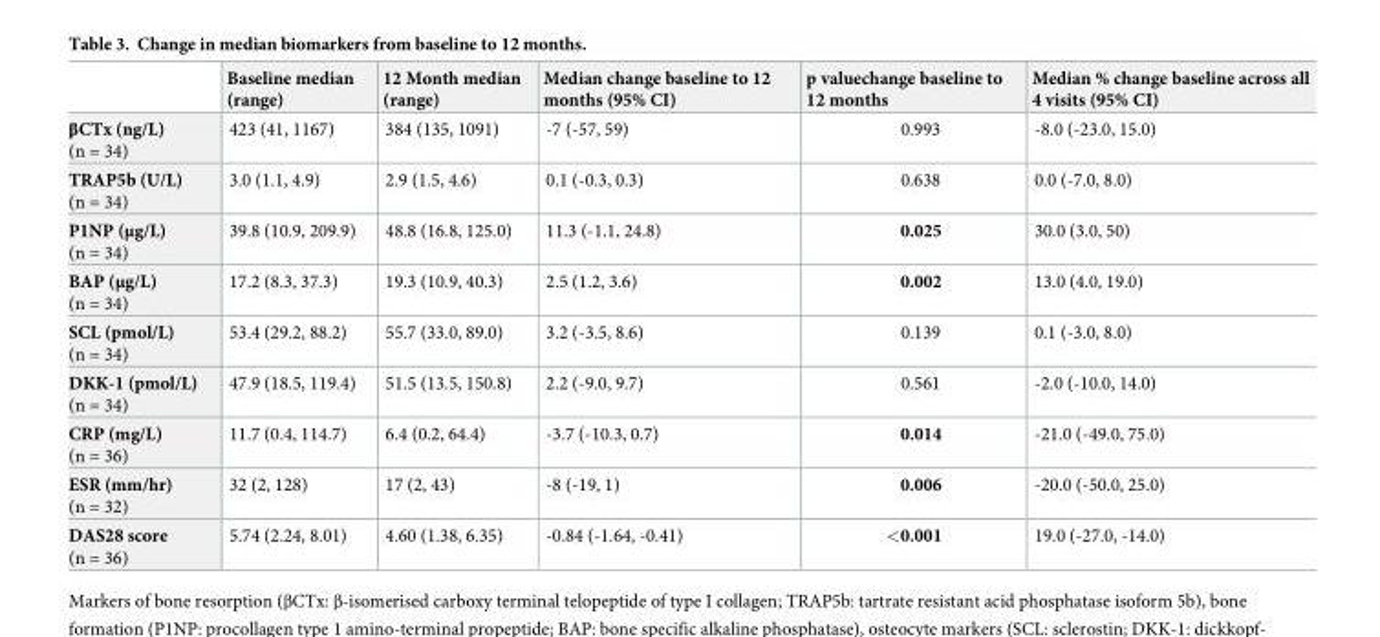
<table><thead><tr><td></td><td>Baseline median (range)</td><td>12 Month median (range)</td><td>Median change baseline to 12 months (95% CI)</td><td>p valuechange baseline to 12 months</td><td>Median % change baseline across all 4 visits (95% CI)</td></tr></thead><tbody><tr><td>βCTx (ng/L) (n = 34)</td><td>423 (41, 1167)</td><td>384 (135, 1091)</td><td>-7 (-57, 59)</td><td>0.993</td><td>-8.0 (-23.0, 15.0)</td></tr><tr><td>TRAP5b (U/L) (n = 34)</td><td>3.0 (1.1, 4.9)</td><td>2.9 (1.5, 4.6)</td><td>0.1 (-0.3, 0.3)</td><td>0.638</td><td>0.0 (-7.0, 8.0)</td></tr><tr><td>P1NP (μg/L) (n = 34)</td><td>39.8 (10.9, 209.9)</td><td>48.8 (16.8, 125.0)</td><td>11.3 (-1.1, 24.8)</td><td>0.025</td><td>30.0 (3.0, 50)</td></tr><tr><td>BAP (μg/L) (n = 34)</td><td>17.2 (8.3, 37.3)</td><td>19.3 (10.9, 40.3)</td><td>2.5 (1.2, 3.6)</td><td>0.002</td><td>13.0 (4.0, 19.0)</td></tr><tr><td>SCL (pmol/L) (n = 34)</td><td>53.4 (29.2, 88.2)</td><td>55.7 (33.0, 89.0)</td><td>3.2 (-3.5, 8.6)</td><td>0.139</td><td>0.1 (-3.0, 8.0)</td></tr><tr><td>DKK-1 (pmol/L) (n = 34)</td><td>47.9 (18.5, 119.4)</td><td>51.5 (13.5, 150.8)</td><td>2.2 (-9.0, 9.7)</td><td>0.561</td><td>-2.0 (-10.0, 14.0)</td></tr><tr><td>CRP (mg/L) (n = 36)</td><td>11.7 (0.4, 114.7)</td><td>6.4 (0.2, 64.4)</td><td>-3.7 (-10.3, 0.7)</td><td>0.014</td><td>-21.0 (-49.0, 75.0)</td></tr><tr><td>ESR (mm/hr) (n = 32)</td><td>32 (2, 128)</td><td>17 (2, 43)</td><td>-8 (-19, 1)</td><td>0.006</td><td>-20.0 (-50.0, 25.0)</td></tr><tr><td>DAS28 score (n = 36)</td><td>5.74 (2.24, 8.01)</td><td>4.60 (1.38, 6.35)</td><td>-0.84 (-1.64, -0.41)</td><td>&lt;0.001</td><td>19.0 (-27.0, -14.0)</td></tr></tbody></table>